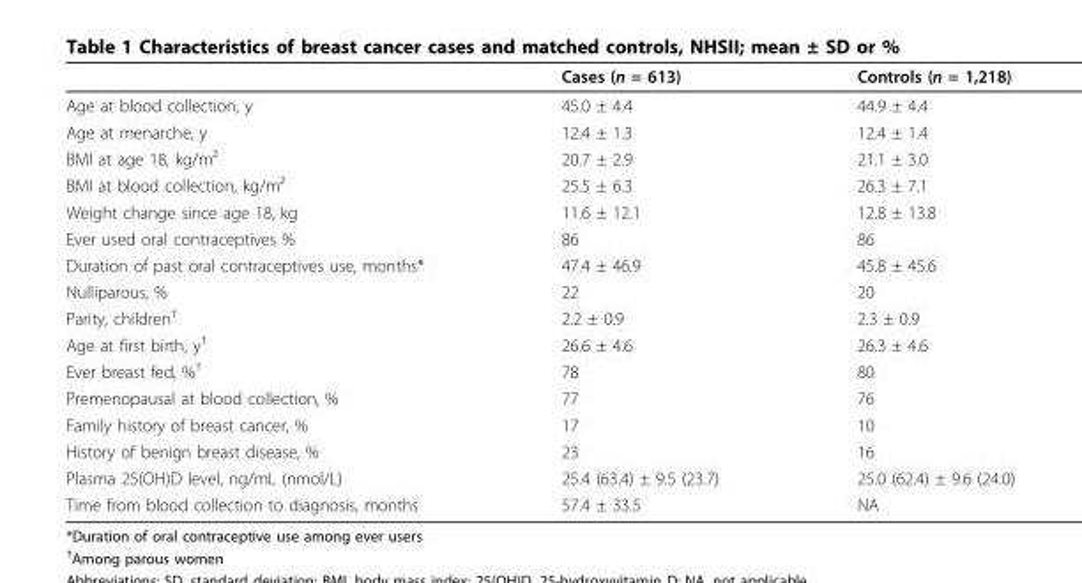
<table><thead><tr><td></td><td>Cases (n = 613)</td><td>Controls (n = 1,218)</td></tr></thead><tbody><tr><td>Age at blood collection, y</td><td>45.0 ± 4.4</td><td>44.9 ± 4.4</td></tr><tr><td>Age at menarche, y</td><td>12.4 ± 1.3</td><td>12.4 ± 1.4</td></tr><tr><td>BMI at age 18, kg/m²</td><td>20.7 ± 2.9</td><td>21.1 ± 3.0</td></tr><tr><td>BMI at blood collection, kg/m²</td><td>25.5 ± 6.3</td><td>26.3 ± 7.1</td></tr><tr><td>Weight change since age 18, kg</td><td>11.6 ± 12.1</td><td>12.8 ± 13.8</td></tr><tr><td>Ever used oral contraceptives %</td><td>86</td><td>86</td></tr><tr><td>Duration of past oral contraceptives use, months*</td><td>47.4 ± 46.9</td><td>45.8 ± 45.6</td></tr><tr><td>Nulliparous, %</td><td>22</td><td>20</td></tr><tr><td>Parity, children<sup>†</sup></td><td>2.2 ± 0.9</td><td>2.3 ± 0.9</td></tr><tr><td>Age at first birth, y<sup>†</sup></td><td>26.6 ± 4.6</td><td>26.3 ± 4.6</td></tr><tr><td>Ever breast fed, %<sup>†</sup></td><td>78</td><td>80</td></tr><tr><td>Premenopausal at blood collection, %</td><td>77</td><td>76</td></tr><tr><td>Family history of breast cancer, %</td><td>17</td><td>10</td></tr><tr><td>History of benign breast disease, %</td><td>23</td><td>16</td></tr><tr><td>Plasma 25(OH)D level, ng/mL (nmol/L)</td><td>25.4 (63.4) ± 9.5 (23.7)</td><td>25.0 (62.4) ± 9.6 (24.0)</td></tr><tr><td>Time from blood collection to diagnosis, months</td><td>57.4 ± 33.5</td><td>NA</td></tr></tbody></table>